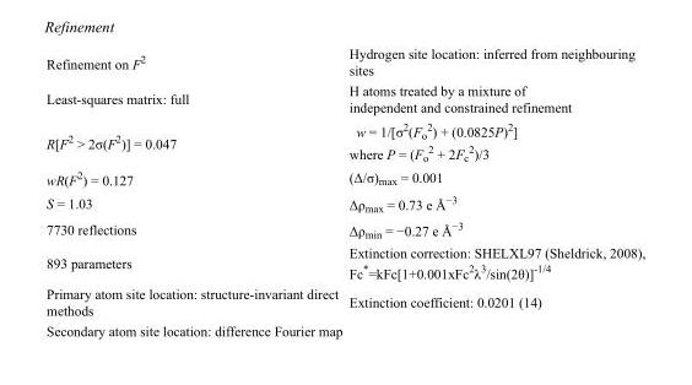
<table><tbody><tr><td>Refinement on F<sup>2</sup></td><td>Hydrogen site location: inferred from neighbouring sites</td></tr><tr><td>Least-squares matrix: full</td><td>H atoms treated by a mixture of independent and constrained refinement</td></tr><tr><td>R[F<sup>2</sup> &gt; 2σ(F<sup>2</sup>)] = 0.047</td><td>w = 1/[σ<sup>2</sup>(F<sub>o</sub> <sup>2</sup>) + (0.0825P)<sup>2</sup>] where P = (F<sub>o</sub> <sup>2</sup> + 2F<sub>c</sub> <sup>2</sup>)/3</td></tr><tr><td>wR(F<sup>2</sup>) = 0.127</td><td>(Δ/σ)<sub>max</sub> = 0.001</td></tr><tr><td>S = 1.03</td><td>Δρ<sub>max</sub> = 0.73 e Å<sup>−3</sup></td></tr><tr><td>7730 reflections</td><td>Δρ<sub>min</sub> = −0.27 e Å<sup>−3</sup></td></tr><tr><td>893 parameters</td><td>Extinction correction: SHELXL97 (Sheldrick, 2008), Fc*=kFc[1+0.001xFc<sup>2</sup>λ<sup>3</sup>/sin(2θ)]<sup>-1/4</sup></td></tr><tr><td>Primary atom site location: structure-invariant direct methods</td><td>Extinction coefficient: 0.0201 (14)</td></tr><tr><td>Secondary atom site location: difference Fourier map</td><td></td></tr></tbody></table>